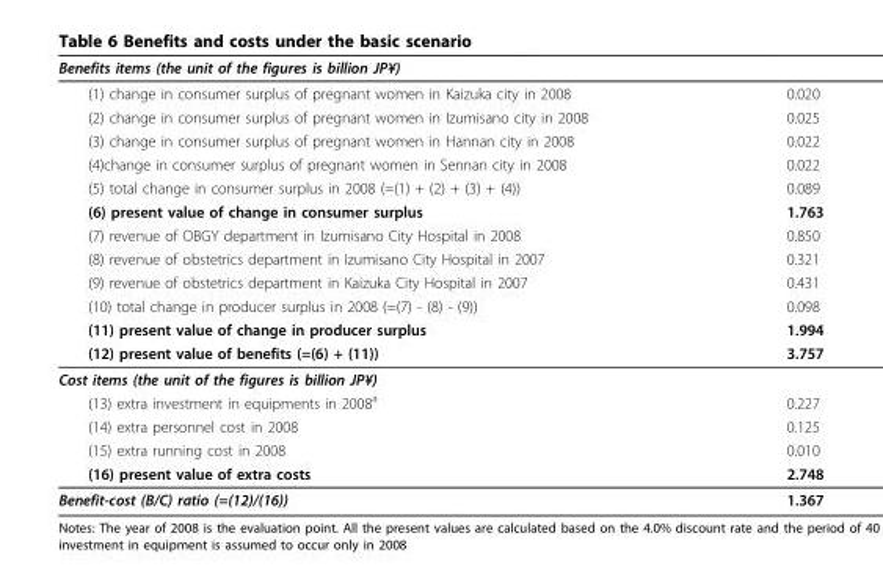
<table><thead><tr><td>Benefits items (the unit of the figures is billion JP¥)</td><td></td></tr></thead><tbody><tr><td>(1) change in consumer surplus of pregnant women in Kaizuka city in 2008</td><td>0.020</td></tr><tr><td>(2) change in consumer surplus of pregnant women in Izumisano city in 2008</td><td>0.025</td></tr><tr><td>(3) change in consumer surplus of pregnant women in Hannan city in 2008</td><td>0.022</td></tr><tr><td>(4)change in consumer surplus of pregnant women in Sennan city in 2008</td><td>0.022</td></tr><tr><td>(5) total change in consumer surplus in 2008 (=(1) + (2) + (3) + (4))</td><td>0.089</td></tr><tr><td>(6) present value of change in consumer surplus</td><td>1.763</td></tr><tr><td>(7) revenue of OBGY department in Izumisano City Hospital in 2008</td><td>0.850</td></tr><tr><td>(8) revenue of obstetrics department in Izumisano City Hospital in 2007</td><td>0.321</td></tr><tr><td>(9) revenue of obstetrics department in Kaizuka City Hospital in 2007</td><td>0.431</td></tr><tr><td>(10) total change in producer surplus in 2008 (=(7) - (8) - (9))</td><td>0.098</td></tr><tr><td>(11) present value of change in producer surplus</td><td>1.994</td></tr><tr><td>(12) present value of benefits (=(6) + (11))</td><td>3.757</td></tr><tr><td colspan="2">Cost items (the unit of the figures is billion JP¥)</td></tr><tr><td>(13) extra investment in equipments in 2008<sup>a</sup></td><td>0.227</td></tr><tr><td>(14) extra personnel cost in 2008</td><td>0.125</td></tr><tr><td>(15) extra running cost in 2008</td><td>0.010</td></tr><tr><td>(16) present value of extra costs</td><td>2.748</td></tr><tr><td>Benefit-cost (B/C) ratio (=(12)/(16))</td><td>1.367</td></tr></tbody></table>